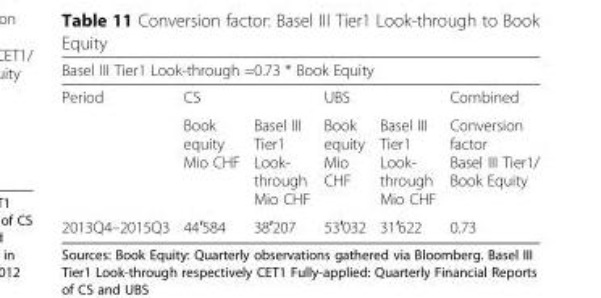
<table><thead><tr><td colspan="6">Basel III Tier1 Look-through =0.73 * Book Equity</td></tr><tr><td rowspan="2">Period</td><td colspan="2">CS</td><td colspan="2">UBS</td><td rowspan="2">Combined Conversion factor Basel III Tier1/ Book Equity</td></tr><tr><td>Book equity Mio CHF</td><td>Basel III Tier1 Look- through Mio CHF</td><td>Book equity Mio CHF</td><td>Basel III Tier1 Look- through Mio CHF</td></tr></thead><tbody><tr><td>2013Q4–2015Q3</td><td>44′584</td><td>38′207</td><td>53′032</td><td>31′622</td><td>0.73</td></tr></tbody></table>